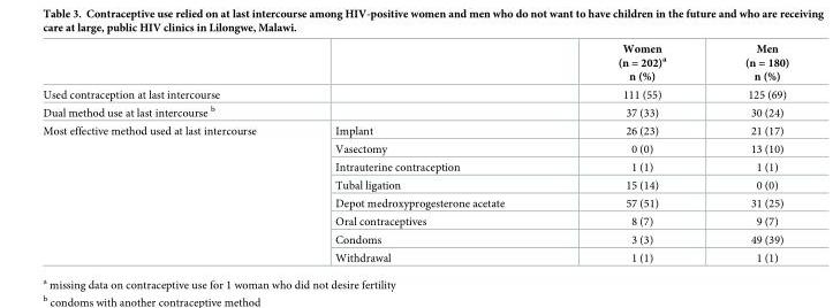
<table><thead><tr><td></td><td></td><td>Women (n = 202)<sup>a</sup> n (%)</td><td>Men (n = 180) n (%)</td></tr></thead><tbody><tr><td>Used contraception at last intercourse</td><td></td><td>111 (55)</td><td>125 (69)</td></tr><tr><td>Dual method use at last intercourse <sup>b</sup></td><td></td><td>37 (33)</td><td>30 (24)</td></tr><tr><td rowspan="8">Most effective method used at last intercourse</td><td>Implant</td><td>26 (23)</td><td>21 (17)</td></tr><tr><td>Vasectomy</td><td>0 (0)</td><td>13 (10)</td></tr><tr><td>Intrauterine contraception</td><td>1 (1)</td><td>1 (1)</td></tr><tr><td>Tubal ligation</td><td>15 (14)</td><td>0 (0)</td></tr><tr><td>Depot medroxyprogesterone acetate</td><td>57 (51)</td><td>31 (25)</td></tr><tr><td>Oral contraceptives</td><td>8 (7)</td><td>9 (7)</td></tr><tr><td>Condoms</td><td>3 (3)</td><td>49 (39)</td></tr><tr><td>Withdrawal</td><td>1 (1)</td><td>1 (1)</td></tr></tbody></table>